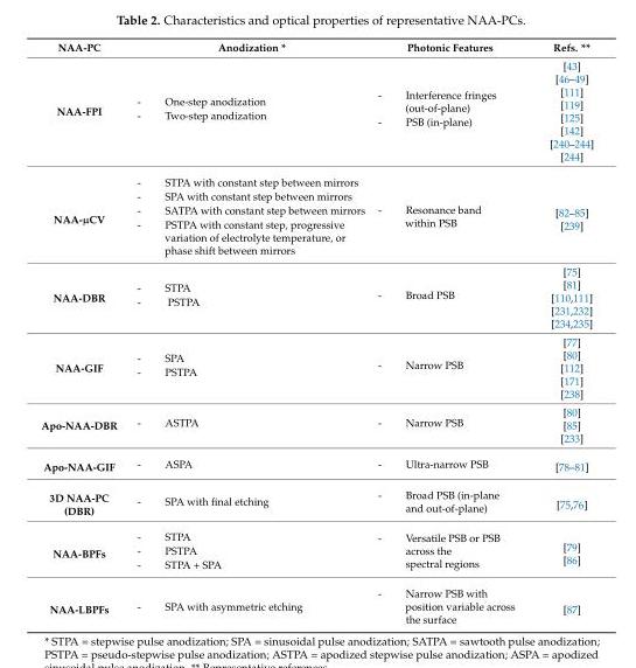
<table><thead><tr><td>NAA-PC</td><td>Anodization *</td><td>Photonic Features</td><td>Refs. **</td></tr></thead><tbody><tr><td>NAA-FPI</td><td>- One-step anodization - Two-step anodization</td><td>- Interference fringes (out-of-plane) - PSB (in-plane)</td><td>[43] [46–49] [111] [119] [125] [142] [240–244] [244]</td></tr><tr><td>NAA-µCV</td><td>- STPA with constant step between mirrors - SPA with constant step between mirrors - SATPA with constant step between mirrors - PSTPA with constant step, progressive variation of electrolyte temperature, or phase shift between mirrors</td><td>- Resonance band within PSB</td><td>[82–85] [239]</td></tr><tr><td>NAA-DBR</td><td>- STPA - PSTPA</td><td>- Broad PSB</td><td>[75] [81] [110,111] [231,232] [234,235]</td></tr><tr><td>NAA-GIF</td><td>- SPA - PSTPA</td><td>- Narrow PSB</td><td>[77] [80] [112] [171] [238]</td></tr><tr><td>Apo-NAA-DBR</td><td>- ASTPA</td><td>- Narrow PSB</td><td>[80] [85] [233]</td></tr><tr><td>Apo-NAA-GIF</td><td>- ASPA</td><td>- Ultra-narrow PSB</td><td>[78–81]</td></tr><tr><td>3D NAA-PC (DBR)</td><td>- SPA with final etching</td><td>- Broad PSB (in-plane and out-of-plane)</td><td>[75,76]</td></tr><tr><td>NAA-BPFs</td><td>- STPA - PSTPA - STPA + SPA</td><td>- Versatile PSB or PSB across the spectral regions</td><td>[79] [86]</td></tr><tr><td>NAA-LBPFs</td><td>- SPA with asymmetric etching</td><td>- Narrow PSB with position variable across the surface</td><td>[87]</td></tr></tbody></table>